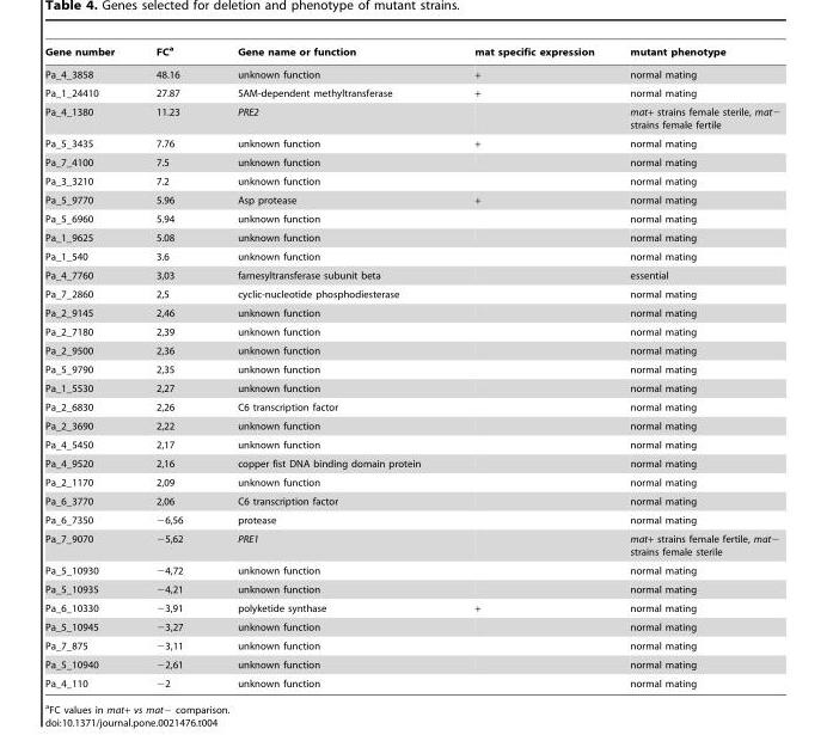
<table><thead><tr><td>Gene number</td><td>FC<sup>a</sup></td><td>Gene name or function</td><td>mat specific expression</td><td>mutant phenotype</td></tr></thead><tbody><tr><td>Pa_4_3858</td><td>48.16</td><td>unknown function</td><td>+</td><td>normal mating</td></tr><tr><td>Pa_1_24410</td><td>27.87</td><td>SAM-dependent methyltransferase</td><td>+</td><td>normal mating</td></tr><tr><td>Pa_4_1380</td><td>11.23</td><td>PRE2</td><td></td><td>mat+ strains female sterile, mat− strains female fertile</td></tr><tr><td>Pa_5_3435</td><td>7.76</td><td>unknown function</td><td>+</td><td>normal mating</td></tr><tr><td>Pa_7_4100</td><td>7.5</td><td>unknown function</td><td></td><td>normal mating</td></tr><tr><td>Pa_3_3210</td><td>7.2</td><td>unknown function</td><td></td><td>normal mating</td></tr><tr><td>Pa_5_9770</td><td>5.96</td><td>Asp protease</td><td>+</td><td>normal mating</td></tr><tr><td>Pa_5_6960</td><td>5.94</td><td>unknown function</td><td></td><td>normal mating</td></tr><tr><td>Pa_1_9625</td><td>5.08</td><td>unknown function</td><td></td><td>normal mating</td></tr><tr><td>Pa_1_540</td><td>3.6</td><td>unknown function</td><td></td><td>normal mating</td></tr><tr><td>Pa_4_7760</td><td>3,03</td><td>farnesyltransferase subunit beta</td><td></td><td>essential</td></tr><tr><td>Pa_7_2860</td><td>2,5</td><td>cyclic-nucleotide phosphodiesterase</td><td></td><td>normal mating</td></tr><tr><td>Pa_2_9145</td><td>2,46</td><td>unknown function</td><td></td><td>normal mating</td></tr><tr><td>Pa_2_7180</td><td>2,39</td><td>unknown function</td><td></td><td>normal mating</td></tr><tr><td>Pa_2_9500</td><td>2,36</td><td>unknown function</td><td></td><td>normal mating</td></tr><tr><td>Pa_5_9790</td><td>2,35</td><td>unknown function</td><td></td><td>normal mating</td></tr><tr><td>Pa_1_5530</td><td>2,27</td><td>unknown function</td><td></td><td>normal mating</td></tr><tr><td>Pa_2_6830</td><td>2,26</td><td>C6 transcription factor</td><td></td><td>normal mating</td></tr><tr><td>Pa_2_3690</td><td>2,22</td><td>unknown function</td><td></td><td>normal mating</td></tr><tr><td>Pa_4_5450</td><td>2,17</td><td>unknown function</td><td></td><td>normal mating</td></tr><tr><td>Pa_4_9520</td><td>2,16</td><td>copper fist DNA binding domain protein</td><td></td><td>normal mating</td></tr><tr><td>Pa_2_1170</td><td>2,09</td><td>unknown function</td><td></td><td>normal mating</td></tr><tr><td>Pa_6_3770</td><td>2,06</td><td>C6 transcription factor</td><td></td><td>normal mating</td></tr><tr><td>Pa_6_7350</td><td>−6,56</td><td>protease</td><td></td><td>normal mating</td></tr><tr><td>Pa_7_9070</td><td>−5,62</td><td>PRE1</td><td></td><td>mat+ strains female fertile, mat− strains female sterile</td></tr><tr><td>Pa_5_10930</td><td>−4,72</td><td>unknown function</td><td></td><td>normal mating</td></tr><tr><td>Pa_5_10935</td><td>−4,21</td><td>unknown function</td><td></td><td>normal mating</td></tr><tr><td>Pa_6_10330</td><td>−3,91</td><td>polyketide synthase</td><td>+</td><td>normal mating</td></tr><tr><td>Pa_5_10945</td><td>−3,27</td><td>unknown function</td><td></td><td>normal mating</td></tr><tr><td>Pa_7_875</td><td>−3,11</td><td>unknown function</td><td></td><td>normal mating</td></tr><tr><td>Pa_5_10940</td><td>−2,61</td><td>unknown function</td><td></td><td>normal mating</td></tr><tr><td>Pa_4_110</td><td>−2</td><td>unknown function</td><td></td><td>normal mating</td></tr></tbody></table>